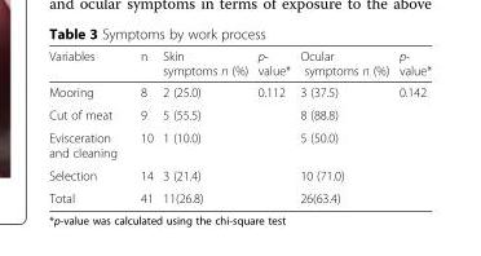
<table><thead><tr><td>Variables</td><td>n</td><td>Skin symptoms n (%)</td><td>p- value*</td><td>Ocular symptoms n (%)</td><td>p- value*</td></tr></thead><tbody><tr><td>Mooring</td><td>8</td><td>2 (25.0)</td><td rowspan="4">0.112</td><td>3 (37.5)</td><td rowspan="4">0.142</td></tr><tr><td>Cut of meat</td><td>9</td><td>5 (55.5)</td><td>8 (88.8)</td></tr><tr><td>Evisceration and cleaning</td><td>10</td><td>1 (10.0)</td><td>5 (50.0)</td></tr><tr><td>Selection</td><td>14</td><td>3 (21.4)</td><td>10 (71.0)</td></tr><tr><td>Total</td><td>41</td><td>11(26.8)</td><td></td><td>26(63.4)</td><td></td></tr></tbody></table>